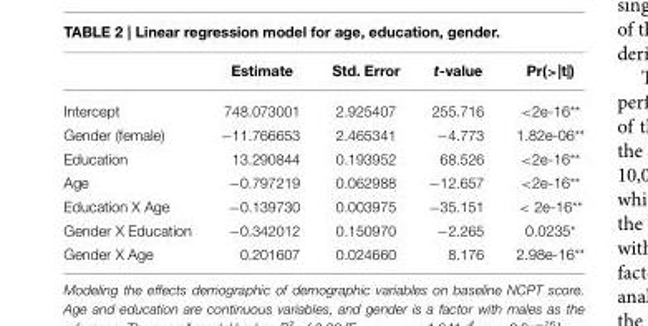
<table><thead><tr><td></td><td>Estimate</td><td>Std. Error</td><td>t-value</td><td>Pr(&gt;|t|)</td></tr></thead><tbody><tr><td>Intercept</td><td>748.073001</td><td>2.925407</td><td>255.716</td><td>&lt;2e-16**</td></tr><tr><td>Gender (female)</td><td>−11.766653</td><td>2.465341</td><td>−4.773</td><td>1.82e-06**</td></tr><tr><td>Education</td><td>13.290844</td><td>0.193952</td><td>68.526</td><td>&lt;2e-16**</td></tr><tr><td>Age</td><td>−0.797219</td><td>0.062988</td><td>−12.657</td><td>&lt;2e-16**</td></tr><tr><td>Education X Age</td><td>−0.139730</td><td>0.003975</td><td>−35.151</td><td>&lt; 2e-16**</td></tr><tr><td>Gender X Education</td><td>−0.342012</td><td>0.150970</td><td>−2.265</td><td>0.0235*</td></tr><tr><td>Gender X Age</td><td>0.201607</td><td>0.024660</td><td>8.176</td><td>2.98e-16**</td></tr></tbody></table>